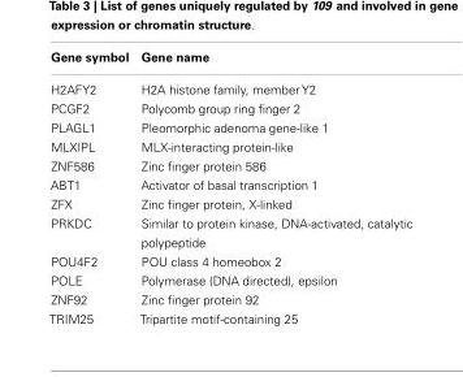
<table><thead><tr><td>Gene symbol</td><td>Gene name</td></tr></thead><tbody><tr><td>H2AFY2</td><td>H2A histone family, member Y2</td></tr><tr><td>PCGF2</td><td>Polycomb group ring finger 2</td></tr><tr><td>PLAGL1</td><td>Pleomorphic adenoma gene-like 1</td></tr><tr><td>MLXIPL</td><td>MLX-interacting protein-like</td></tr><tr><td>ZNF586</td><td>Zinc finger protein 586</td></tr><tr><td>ABT1</td><td>Activator of basal transcription 1</td></tr><tr><td>ZFX</td><td>Zinc finger protein, X-linked</td></tr><tr><td>PRKDC</td><td>Similar to protein kinase, DNA-activated, catalytic polypeptide</td></tr><tr><td>POU4F2</td><td>POU class 4 homeobox 2</td></tr><tr><td>POLE</td><td>Polymerase (DNA directed), epsilon</td></tr><tr><td>ZNF92</td><td>Zinc finger protein 92</td></tr><tr><td>TRIM25</td><td>Tripartite motif-containing 25</td></tr></tbody></table>